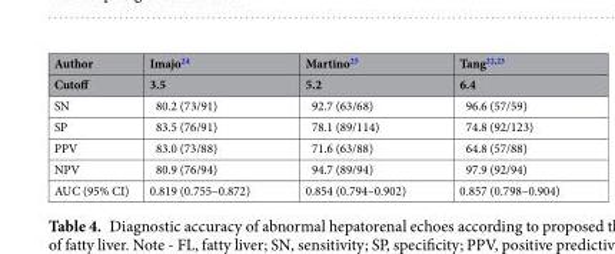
<table><thead><tr><td rowspan="2">Author Cutoff</td><td rowspan="2">Imajo<sup>24</sup> 3.5</td><td rowspan="2">Martino<sup>25</sup> 5.2</td><td rowspan="2">Tang<sup>22,23</sup> 6.4</td></tr><tr></tr></thead><tbody><tr><td>SN</td><td>80.2 (73/91)</td><td>92.7 (63/68)</td><td>96.6 (57/59)</td></tr><tr><td>SP</td><td>83.5 (76/91)</td><td>78.1 (89/114)</td><td>74.8 (92/123)</td></tr><tr><td>PPV</td><td>83.0 (73/88)</td><td>71.6 (63/88)</td><td>64.8 (57/88)</td></tr><tr><td>NPV</td><td>80.9 (76/94)</td><td>94.7 (89/94)</td><td>97.9 (92/94)</td></tr><tr><td>AUC (95% CI)</td><td>0.819 (0.755–0.872)</td><td>0.854 (0.794–0.902)</td><td>0.857 (0.798–0.904)</td></tr></tbody></table>